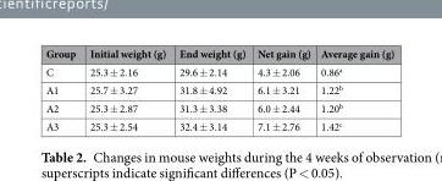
<table><thead><tr><td>Group</td><td>Initial weight (g)</td><td>End weight (g)</td><td>Net gain (g)</td><td>Average gain (g)</td></tr></thead><tbody><tr><td>C</td><td>25.3 ± 2.16</td><td>29.6 ± 2.14</td><td>4.3 ± 2.06</td><td>0.86<sup>a</sup></td></tr><tr><td>A1</td><td>25.7 ± 3.27</td><td>31.8 ± 4.92</td><td>6.1 ± 3.21</td><td>1.22<sup>b</sup></td></tr><tr><td>A2</td><td>25.3 ± 2.87</td><td>31.3 ± 3.38</td><td>6.0 ± 2.44</td><td>1.20<sup>b</sup></td></tr><tr><td>A3</td><td>25.3 ± 2.54</td><td>32.4 ± 3.14</td><td>7.1 ± 2.76</td><td>1.42<sup>c</sup></td></tr></tbody></table>